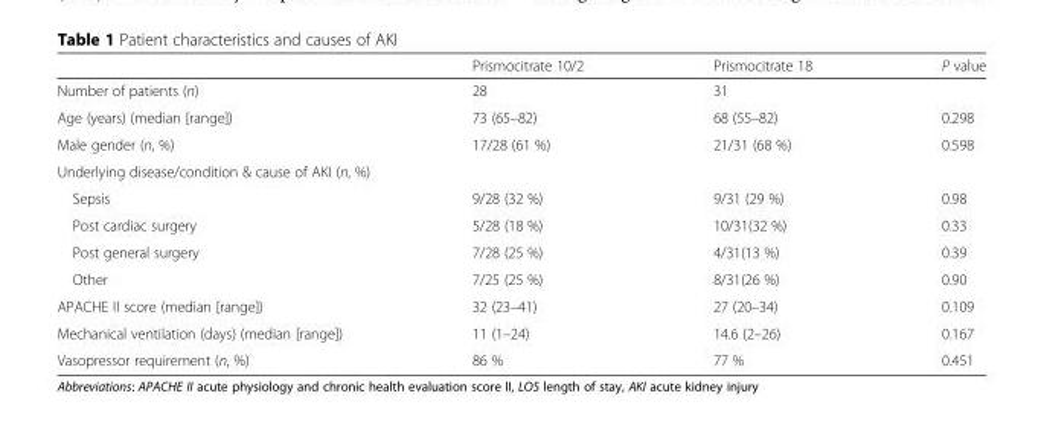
<table><thead><tr><td></td><td>Prismocitrate 10/2</td><td>Prismocitrate 18</td><td>P value</td></tr></thead><tbody><tr><td>Number of patients (n)</td><td>28</td><td>31</td><td></td></tr><tr><td>Age (years) (median [range])</td><td>73 (65–82)</td><td>68 (55–82)</td><td>0.298</td></tr><tr><td>Male gender (n, %)</td><td>17/28 (61 %)</td><td>21/31 (68 %)</td><td>0.598</td></tr><tr><td colspan="4">Underlying disease/condition &amp; cause of AKI (n, %)</td></tr><tr><td>Sepsis</td><td>9/28 (32 %)</td><td>9/31 (29 %)</td><td>0.98</td></tr><tr><td>Post cardiac surgery</td><td>5/28 (18 %)</td><td>10/31(32 %)</td><td>0.33</td></tr><tr><td>Post general surgery</td><td>7/28 (25 %)</td><td>4/31(13 %)</td><td>0.39</td></tr><tr><td>Other</td><td>7/25 (25 %)</td><td>8/31(26 %)</td><td>0.90</td></tr><tr><td>APACHE II score (median [range])</td><td>32 (23–41)</td><td>27 (20–34)</td><td>0.109</td></tr><tr><td>Mechanical ventilation (days) (median [range])</td><td>11 (1–24)</td><td>14.6 (2–26)</td><td>0.167</td></tr><tr><td>Vasopressor requirement (n, %)</td><td>86 %</td><td>77 %</td><td>0.451</td></tr></tbody></table>